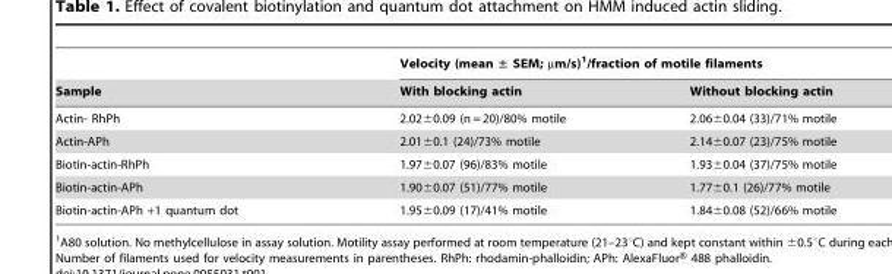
<table><thead><tr><td rowspan="2">Sample</td><td colspan="2">Velocity (mean ± SEM; µm/s)<sup>1</sup>/fraction of motile filaments</td></tr><tr><td>With blocking actin</td><td>Without blocking actin</td></tr></thead><tbody><tr><td>Actin- RhPh</td><td>2.02±0.09 (n = 20)/80% motile</td><td>2.06±0.04 (33)/71% motile</td></tr><tr><td>Actin-APh</td><td>2.01±0.1 (24)/73% motile</td><td>2.14±0.07 (23)/75% motile</td></tr><tr><td>Biotin-actin-RhPh</td><td>1.97±0.07 (96)/83% motile</td><td>1.93±0.04 (37)/75% motile</td></tr><tr><td>Biotin-actin-APh</td><td>1.90±0.07 (51)/77% motile</td><td>1.77±0.1 (26)/77% motile</td></tr><tr><td>Biotin-actin-APh +1 quantum dot</td><td>1.95±0.09 (17)/41% motile</td><td>1.84±0.08 (52)/66% motile</td></tr></tbody></table>